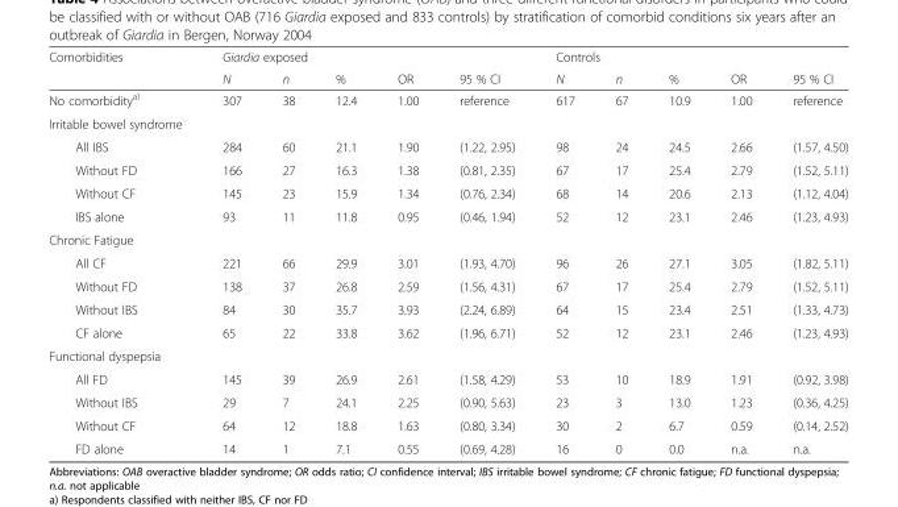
<table><thead><tr><td rowspan="2">Comorbidities</td><td colspan="5">Giardia exposed</td><td colspan="5">Controls</td></tr><tr><td>N</td><td>n</td><td>%</td><td>OR</td><td>95 % CI</td><td>N</td><td>n</td><td>%</td><td>OR</td><td>95 % CI</td></tr></thead><tbody><tr><td>No comorbidity<sup>a)</sup></td><td>307</td><td>38</td><td>12.4</td><td>1.00</td><td>reference</td><td>617</td><td>67</td><td>10.9</td><td>1.00</td><td>reference</td></tr><tr><td colspan="11">Irritable bowel syndrome</td></tr><tr><td>All IBS</td><td>284</td><td>60</td><td>21.1</td><td>1.90</td><td>(1.22, 2.95)</td><td>98</td><td>24</td><td>24.5</td><td>2.66</td><td>(1.57, 4.50)</td></tr><tr><td>Without FD</td><td>166</td><td>27</td><td>16.3</td><td>1.38</td><td>(0.81, 2.35)</td><td>67</td><td>17</td><td>25.4</td><td>2.79</td><td>(1.52, 5.11)</td></tr><tr><td>Without CF</td><td>145</td><td>23</td><td>15.9</td><td>1.34</td><td>(0.76, 2.34)</td><td>68</td><td>14</td><td>20.6</td><td>2.13</td><td>(1.12, 4.04)</td></tr><tr><td>IBS alone</td><td>93</td><td>11</td><td>11.8</td><td>0.95</td><td>(0.46, 1.94)</td><td>52</td><td>12</td><td>23.1</td><td>2.46</td><td>(1.23, 4.93)</td></tr><tr><td colspan="11">Chronic Fatigue</td></tr><tr><td>All CF</td><td>221</td><td>66</td><td>29.9</td><td>3.01</td><td>(1.93, 4.70)</td><td>96</td><td>26</td><td>27.1</td><td>3.05</td><td>(1.82, 5.11)</td></tr><tr><td>Without FD</td><td>138</td><td>37</td><td>26.8</td><td>2.59</td><td>(1.56, 4.31)</td><td>67</td><td>17</td><td>25.4</td><td>2.79</td><td>(1.52, 5.11)</td></tr><tr><td>Without IBS</td><td>84</td><td>30</td><td>35.7</td><td>3.93</td><td>(2.24, 6.89)</td><td>64</td><td>15</td><td>23.4</td><td>2.51</td><td>(1.33, 4.73)</td></tr><tr><td>CF alone</td><td>65</td><td>22</td><td>33.8</td><td>3.62</td><td>(1.96, 6.71)</td><td>52</td><td>12</td><td>23.1</td><td>2.46</td><td>(1.23, 4.93)</td></tr><tr><td colspan="11">Functional dyspepsia</td></tr><tr><td>All FD</td><td>145</td><td>39</td><td>26.9</td><td>2.61</td><td>(1.58, 4.29)</td><td>53</td><td>10</td><td>18.9</td><td>1.91</td><td>(0.92, 3.98)</td></tr><tr><td>Without IBS</td><td>29</td><td>7</td><td>24.1</td><td>2.25</td><td>(0.90, 5.63)</td><td>23</td><td>3</td><td>13.0</td><td>1.23</td><td>(0.36, 4.25)</td></tr><tr><td>Without CF</td><td>64</td><td>12</td><td>18.8</td><td>1.63</td><td>(0.80, 3.34)</td><td>30</td><td>2</td><td>6.7</td><td>0.59</td><td>(0.14, 2.52)</td></tr><tr><td>FD alone</td><td>14</td><td>1</td><td>7.1</td><td>0.55</td><td>(0.69, 4.28)</td><td>16</td><td>0</td><td>0.0</td><td>n.a.</td><td>n.a.</td></tr></tbody></table>